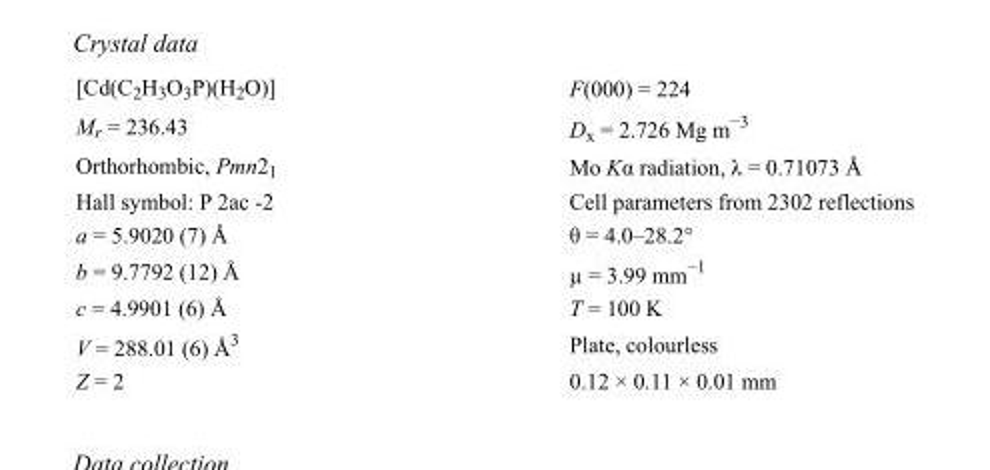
<table><tbody><tr><td>[Cd(C<sub>2</sub>H<sub>3</sub>O<sub>3</sub>P)(H<sub>2</sub>O)]</td><td>F(000) = 224</td></tr><tr><td>M<sub>r</sub> = 236.43</td><td>D<sub>x</sub> = 2.726 Mg m<sup>−3</sup></td></tr><tr><td>Orthorhombic, Pmn2<sub>1</sub></td><td>Mo Kα radiation, λ = 0.71073 Å</td></tr><tr><td>Hall symbol: P 2ac -2</td><td>Cell parameters from 2302 reflections</td></tr><tr><td>a = 5.9020 (7) Å</td><td>θ = 4.0–28.2°</td></tr><tr><td>b = 9.7792 (12) Å</td><td>µ = 3.99 mm<sup>−1</sup></td></tr><tr><td>c = 4.9901 (6) Å</td><td>T = 100 K</td></tr><tr><td>V = 288.01 (6) Å<sup>3</sup></td><td>Plate, colourless</td></tr><tr><td>Z = 2</td><td>0.12 × 0.11 × 0.01 mm</td></tr></tbody></table>